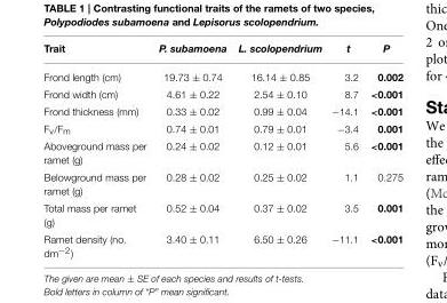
<table><thead><tr><td>Trait</td><td>P. subamoena</td><td>L. scolopendrium</td><td>t</td><td>P</td></tr></thead><tbody><tr><td>Frond length (cm)</td><td>19.73 ± 0.74</td><td>16.14 ± 0.85</td><td>3.2</td><td>0.002</td></tr><tr><td>Frond width (cm)</td><td>4.61 ± 0.22</td><td>2.54 ± 0.10</td><td>8.7</td><td>&lt;0.001</td></tr><tr><td>Frond thickness (mm)</td><td>0.33 ± 0.02</td><td>0.99 ± 0.04</td><td>−14.1</td><td>&lt;0.001</td></tr><tr><td>F<sub>v</sub>/F<sub>m</sub></td><td>0.74 ± 0.01</td><td>0.79 ± 0.01</td><td>−3.4</td><td>0.001</td></tr><tr><td>Aboveground mass per ramet (g)</td><td>0.24 ± 0.02</td><td>0.12 ± 0.01</td><td>5.6</td><td>&lt;0.001</td></tr><tr><td>Belowground mass per ramet (g)</td><td>0.28 ± 0.02</td><td>0.25 ± 0.02</td><td>1.1</td><td>0.275</td></tr><tr><td>Total mass per ramet (g)</td><td>0.52 ± 0.04</td><td>0.37 ± 0.02</td><td>3.5</td><td>0.001</td></tr><tr><td>Ramet density (no. dm<sup>−2</sup>)</td><td>3.40 ± 0.11</td><td>6.50 ± 0.26</td><td>−11.1</td><td>&lt;0.001</td></tr></tbody></table>